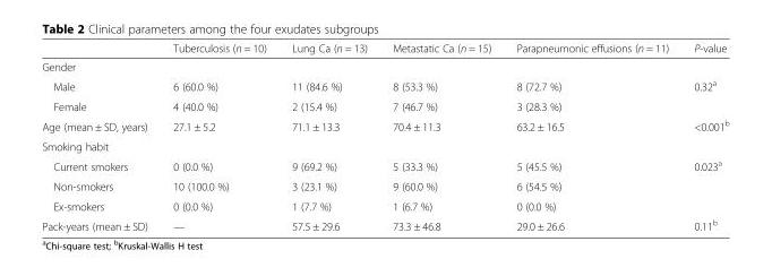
<table><thead><tr><td></td><td>Tuberculosis (n = 10)</td><td>Lung Ca (n = 13)</td><td>Metastatic Ca (n = 15)</td><td>Parapneumonic effusions (n = 11)</td><td>P-value</td></tr></thead><tbody><tr><td colspan="6">Gender</td></tr><tr><td>Male</td><td>6 (60.0 %)</td><td>11 (84.6 %)</td><td>8 (53.3 %)</td><td>8 (72.7 %)</td><td rowspan="2">0.32<sup>a</sup></td></tr><tr><td>Female</td><td>4 (40.0 %)</td><td>2 (15.4 %)</td><td>7 (46.7 %)</td><td>3 (28.3 %)</td></tr><tr><td>Age (mean ± SD, years)</td><td>27.1 ± 5.2</td><td>71.1 ± 13.3</td><td>70.4 ± 11.3</td><td>63.2 ± 16.5</td><td>&lt;0.001<sup>b</sup></td></tr><tr><td colspan="6">Smoking habit</td></tr><tr><td>Current smokers</td><td>0 (0.0 %)</td><td>9 (69.2 %)</td><td>5 (33.3 %)</td><td>5 (45.5 %)</td><td>0.023<sup>a</sup></td></tr><tr><td>Non-smokers</td><td>10 (100.0 %)</td><td>3 (23.1 %)</td><td>9 (60.0 %)</td><td>6 (54.5 %)</td><td></td></tr><tr><td>Ex-smokers</td><td>0 (0.0 %)</td><td>1 (7.7 %)</td><td>1 (6.7 %)</td><td>0 (0.0 %)</td><td></td></tr><tr><td>Pack-years (mean ± SD)</td><td>—</td><td>57.5 ± 29.6</td><td>73.3 ± 46.8</td><td>29.0 ± 26.6</td><td>0.11<sup>b</sup></td></tr></tbody></table>